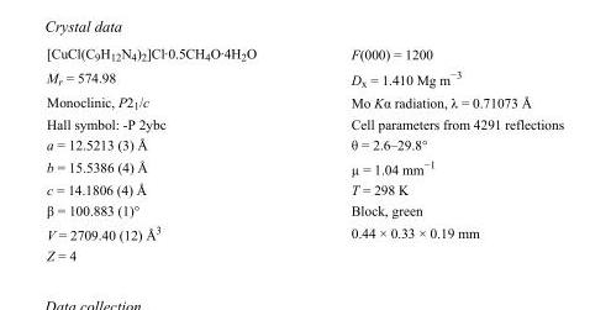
<table><tbody><tr><td>[CuCl(C<sub>9</sub>H<sub>12</sub>N<sub>4</sub>)<sub>2</sub>]Cl·0.5CH<sub>4</sub>O·4H<sub>2</sub>O</td><td>F(000) = 1200</td></tr><tr><td>M<sub>r</sub> = 574.98</td><td>D<sub>x</sub> = 1.410 Mg m<sup>−3</sup></td></tr><tr><td>Monoclinic, P2<sub>1</sub>/c</td><td>Mo Kα radiation, λ = 0.71073 Å</td></tr><tr><td>Hall symbol: -P 2ybc</td><td>Cell parameters from 4291 reflections</td></tr><tr><td>a = 12.5213 (3) Å</td><td>θ = 2.6–29.8°</td></tr><tr><td>b = 15.5386 (4) Å</td><td>µ = 1.04 mm<sup>−1</sup></td></tr><tr><td>c = 14.1806 (4) Å</td><td>T = 298 K</td></tr><tr><td>β = 100.883 (1)°</td><td>Block, green</td></tr><tr><td>V = 2709.40 (12) Å<sup>3</sup></td><td>0.44 × 0.33 × 0.19 mm</td></tr><tr><td>Z = 4</td><td></td></tr></tbody></table>